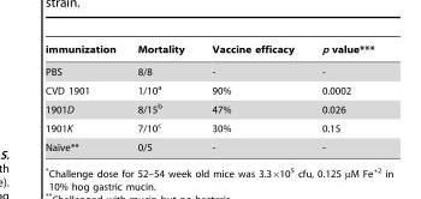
<table><thead><tr><td>immunization</td><td>Mortality</td><td>Vaccine efficacy</td><td>p value***</td></tr></thead><tbody><tr><td>PBS</td><td>8/8</td><td>-</td><td>-</td></tr><tr><td>CVD 1901</td><td>1/10<sup>a</sup></td><td>90%</td><td>0.0002</td></tr><tr><td>1901D</td><td>8/15<sup>b</sup></td><td>47%</td><td>0.026</td></tr><tr><td>1901K</td><td>7/10<sup>c</sup></td><td>30%</td><td>0.15</td></tr><tr><td>Naı¨ve**</td><td>0/5</td><td>-</td><td>-</td></tr></tbody></table>